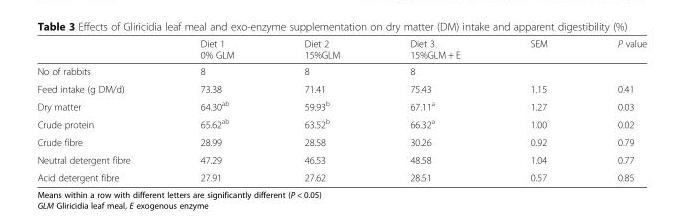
<table><thead><tr><td></td><td>Diet 1 0% GLM</td><td>Diet 2 15%GLM</td><td>Diet 3 15%GLM + E</td><td>SEM</td><td>P value</td></tr></thead><tbody><tr><td>No of rabbits</td><td>8</td><td>8</td><td>8</td><td></td><td></td></tr><tr><td>Feed intake (g DM/d)</td><td>73.38</td><td>71.41</td><td>75.43</td><td>1.15</td><td>0.41</td></tr><tr><td>Dry matter</td><td>64.30<sup>ab</sup></td><td>59.93<sup>b</sup></td><td>67.11<sup>a</sup></td><td>1.27</td><td>0.03</td></tr><tr><td>Crude protein</td><td>65.62<sup>ab</sup></td><td>63.52<sup>b</sup></td><td>66.32<sup>a</sup></td><td>1.00</td><td>0.02</td></tr><tr><td>Crude fibre</td><td>28.99</td><td>28.58</td><td>30.26</td><td>0.92</td><td>0.79</td></tr><tr><td>Neutral detergent fibre</td><td>47.29</td><td>46.53</td><td>48.58</td><td>1.04</td><td>0.77</td></tr><tr><td>Acid detergent fibre</td><td>27.91</td><td>27.62</td><td>28.51</td><td>0.57</td><td>0.85</td></tr></tbody></table>